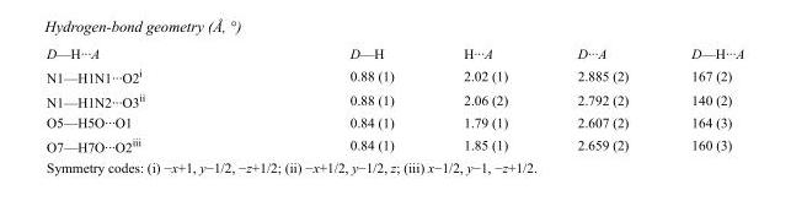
<table><tbody><tr><td>D—H···A</td><td>D—H</td><td>H···A</td><td>D···A</td><td>D—H···A</td></tr><tr><td>N1—H1N1···O2<sup>i</sup></td><td>0.88 (1)</td><td>2.02 (1)</td><td>2.885 (2)</td><td>167 (2)</td></tr><tr><td>N1—H1N2···O3<sup>ii</sup></td><td>0.88 (1)</td><td>2.06 (2)</td><td>2.792 (2)</td><td>140 (2)</td></tr><tr><td>O5—H5O···O1</td><td>0.84 (1)</td><td>1.79 (1)</td><td>2.607 (2)</td><td>164 (3)</td></tr><tr><td>O7—H7O···O2<sup>iii</sup></td><td>0.84 (1)</td><td>1.85 (1)</td><td>2.659 (2)</td><td>160 (3)</td></tr></tbody></table>